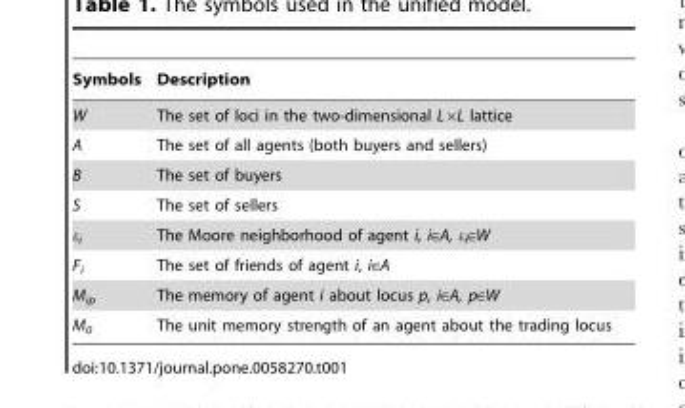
<table><thead><tr><td>Symbols</td><td>Description</td></tr></thead><tbody><tr><td>W</td><td>The set of loci in the two-dimensional L×L lattice</td></tr><tr><td>A</td><td>The set of all agents (both buyers and sellers)</td></tr><tr><td>B</td><td>The set of buyers</td></tr><tr><td>S</td><td>The set of sellers</td></tr><tr><td>ε<sub>i</sub></td><td>The Moore neighborhood of agent i, i∈A, ε<sub>i</sub>∈W</td></tr><tr><td>F<sub>i</sub></td><td>The set of friends of agent i, i∈A</td></tr><tr><td>M<sub>ip</sub></td><td>The memory of agent i about locus p, i∈A, p∈W</td></tr><tr><td>M<sub>0</sub></td><td>The unit memory strength of an agent about the trading locus</td></tr></tbody></table>